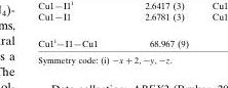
<table><tbody><tr><td>Cu1<sup>i</sup>—I1—Cu1</td><td>68.967 (9)</td></tr></tbody></table>